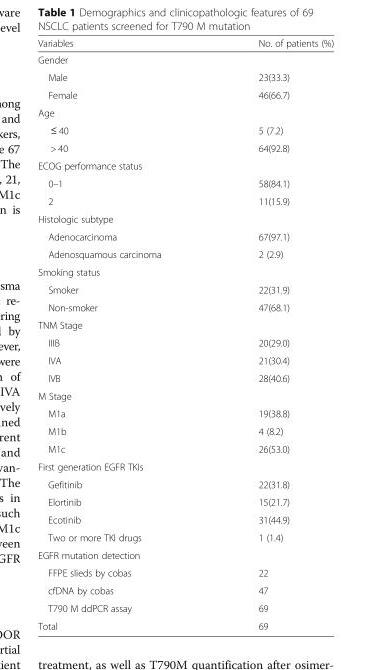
<table><thead><tr><td>Variables</td><td>No. of patients (%)</td></tr></thead><tbody><tr><td colspan="2">Gender</td></tr><tr><td>Male</td><td>23(33.3)</td></tr><tr><td>Female</td><td>46(66.7)</td></tr><tr><td colspan="2">Age</td></tr><tr><td>≤ 40</td><td>5 (7.2)</td></tr><tr><td>&gt; 40</td><td>64(92.8)</td></tr><tr><td colspan="2">ECOG performance status</td></tr><tr><td>0–1</td><td>58(84.1)</td></tr><tr><td>2</td><td>11(15.9)</td></tr><tr><td colspan="2">Histologic subtype</td></tr><tr><td>Adenocarcinoma</td><td>67(97.1)</td></tr><tr><td>Adenosquamous carcinoma</td><td>2 (2.9)</td></tr><tr><td colspan="2">Smoking status</td></tr><tr><td>Smoker</td><td>22(31.9)</td></tr><tr><td>Non-smoker</td><td>47(68.1)</td></tr><tr><td colspan="2">TNM Stage</td></tr><tr><td>IIIB</td><td>20(29.0)</td></tr><tr><td>IVA</td><td>21(30.4)</td></tr><tr><td>IVB</td><td>28(40.6)</td></tr><tr><td colspan="2">M Stage</td></tr><tr><td>M1a</td><td>19(38.8)</td></tr><tr><td>M1b</td><td>4 (8.2)</td></tr><tr><td>M1c</td><td>26(53.0)</td></tr><tr><td colspan="2">First generation EGFR TKIs</td></tr><tr><td>Gefitinib</td><td>22(31.8)</td></tr><tr><td>Elortinib</td><td>15(21.7)</td></tr><tr><td>Ecotinib</td><td>31(44.9)</td></tr><tr><td>Two or more TKI drugs</td><td>1 (1.4)</td></tr><tr><td colspan="2">EGFR mutation detection</td></tr><tr><td>FFPE slieds by cobas</td><td>22</td></tr><tr><td>cfDNA by cobas</td><td>47</td></tr><tr><td>T790 M ddPCR assay</td><td>69</td></tr><tr><td>Total</td><td>69</td></tr></tbody></table>